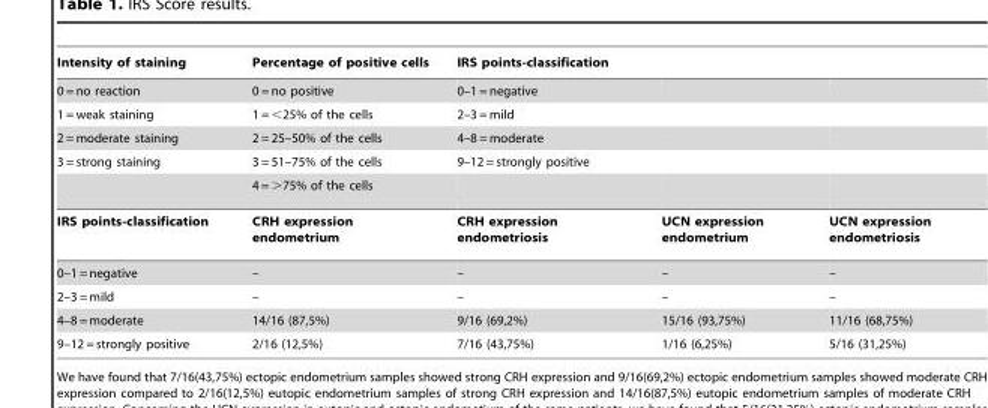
<table><thead><tr><td>Intensity of staining</td><td>Percentage of positive cells</td><td>IRS points-classification</td><td></td><td></td></tr></thead><tbody><tr><td>0 = no reaction</td><td>0 = no positive</td><td>0–1 = negative</td><td></td><td></td></tr><tr><td>1 = weak staining</td><td>1 = &lt;25% of the cells</td><td>2–3 = mild</td><td></td><td></td></tr><tr><td>2 = moderate staining</td><td>2 = 25–50% of the cells</td><td>4–8 = moderate</td><td></td><td></td></tr><tr><td rowspan="2">3 = strong staining</td><td>3 = 51–75% of the cells</td><td>9–12 = strongly positive</td><td></td><td></td></tr><tr><td>4 = &gt;75% of the cells</td><td></td><td></td><td></td></tr><tr><td>IRS points-classification</td><td>CRH expression endometrium</td><td>CRH expression endometriosis</td><td>UCN expression endometrium</td><td>UCN expression endometriosis</td></tr><tr><td>0–1 = negative</td><td>–</td><td>–</td><td>–</td><td>–</td></tr><tr><td>2–3 = mild</td><td>–</td><td>–</td><td>–</td><td>–</td></tr><tr><td>4–8 = moderate</td><td>14/16 (87,5%)</td><td>9/16 (69,2%)</td><td>15/16 (93,75%)</td><td>11/16 (68,75%)</td></tr><tr><td>9–12 = strongly positive</td><td>2/16 (12,5%)</td><td>7/16 (43,75%)</td><td>1/16 (6,25%)</td><td>5/16 (31,25%)</td></tr></tbody></table>